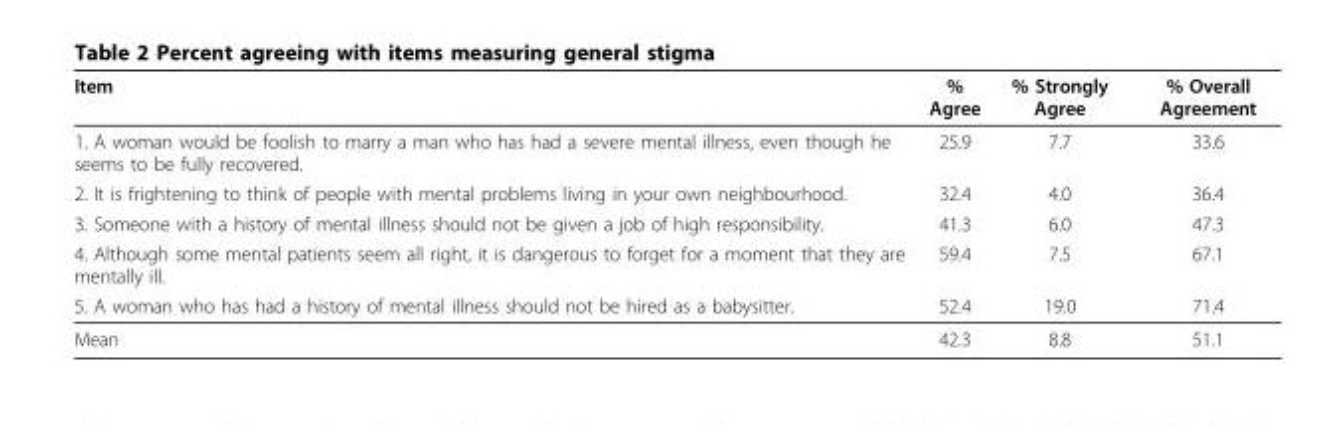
<table><thead><tr><td>Item</td><td>% Agree</td><td>% Strongly Agree</td><td>% Overall Agreement</td></tr></thead><tbody><tr><td>1. A woman would be foolish to marry a man who has had a severe mental illness, even though he seems to be fully recovered.</td><td>25.9</td><td>7.7</td><td>33.6</td></tr><tr><td>2. It is frightening to think of people with mental problems living in your own neighbourhood.</td><td>32.4</td><td>4.0</td><td>36.4</td></tr><tr><td>3. Someone with a history of mental illness should not be given a job of high responsibility.</td><td>41.3</td><td>6.0</td><td>47.3</td></tr><tr><td>4. Although some mental patients seem all right, it is dangerous to forget for a moment that they are mentally ill.</td><td>59.4</td><td>7.5</td><td>67.1</td></tr><tr><td>5. A woman who has had a history of mental illness should not be hired as a babysitter.</td><td>52.4</td><td>19.0</td><td>71.4</td></tr><tr><td>Mean</td><td>42.3</td><td>8.8</td><td>51.1</td></tr></tbody></table>